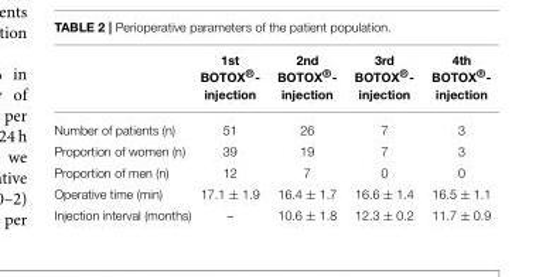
<table><thead><tr><td></td><td>1st BOTOX<sup>®</sup>- injection</td><td>2nd BOTOX<sup>®</sup>- injection</td><td>3rd BOTOX<sup>®</sup>- injection</td><td>4th BOTOX<sup>®</sup>- injection</td></tr></thead><tbody><tr><td>Number of patients (n)</td><td>51</td><td>26</td><td>7</td><td>3</td></tr><tr><td>Proportion of women (n)</td><td>39</td><td>19</td><td>7</td><td>3</td></tr><tr><td>Proportion of men (n)</td><td>12</td><td>7</td><td>0</td><td>0</td></tr><tr><td>Operative time (min)</td><td>17.1 ± 1.9</td><td>16.4 ± 1.7</td><td>16.6 ± 1.4</td><td>16.5 ± 1.1</td></tr><tr><td>Injection interval (months)</td><td>–</td><td>10.6 ± 1.8</td><td>12.3 ± 0.2</td><td>11.7 ± 0.9</td></tr></tbody></table>